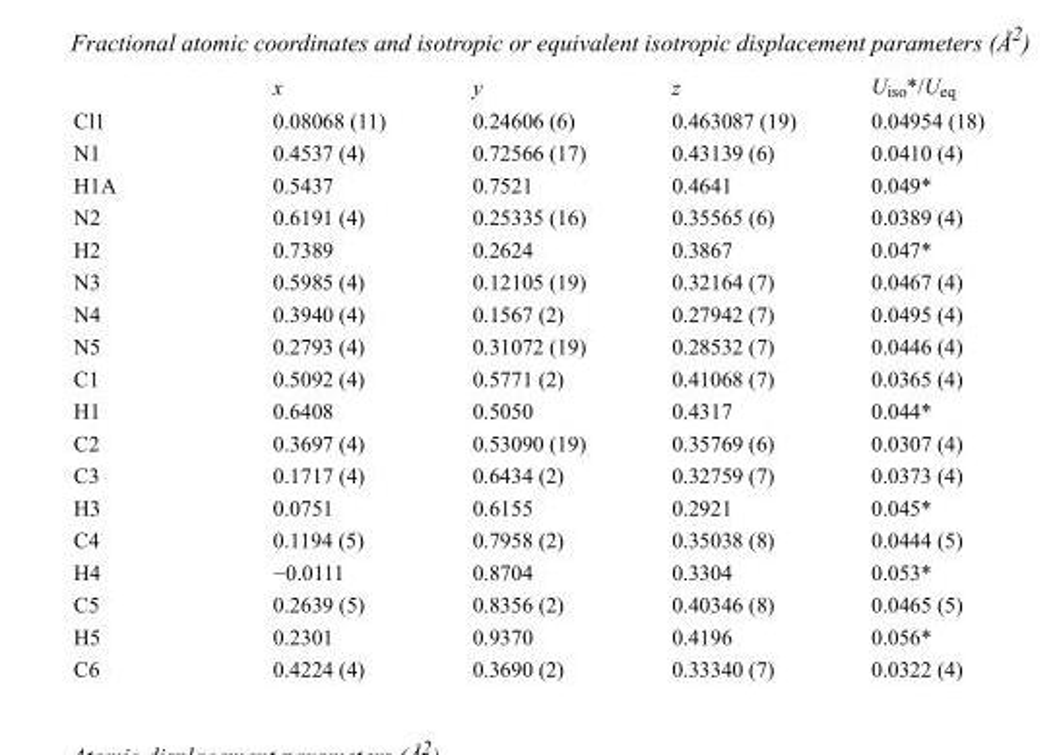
<table><thead><tr><td></td><td>x</td><td>y</td><td>z</td><td>U<sub>iso</sub>*/U<sub>eq</sub></td></tr></thead><tbody><tr><td>Cl1</td><td>0.08068 (11)</td><td>0.24606 (6)</td><td>0.463087 (19)</td><td>0.04954 (18)</td></tr><tr><td>N1</td><td>0.4537 (4)</td><td>0.72566 (17)</td><td>0.43139 (6)</td><td>0.0410 (4)</td></tr><tr><td>H1A</td><td>0.5437</td><td>0.7521</td><td>0.4641</td><td>0.049*</td></tr><tr><td>N2</td><td>0.6191 (4)</td><td>0.25335 (16)</td><td>0.35565 (6)</td><td>0.0389 (4)</td></tr><tr><td>H2</td><td>0.7389</td><td>0.2624</td><td>0.3867</td><td>0.047*</td></tr><tr><td>N3</td><td>0.5985 (4)</td><td>0.12105 (19)</td><td>0.32164 (7)</td><td>0.0467 (4)</td></tr><tr><td>N4</td><td>0.3940 (4)</td><td>0.1567 (2)</td><td>0.27942 (7)</td><td>0.0495 (4)</td></tr><tr><td>N5</td><td>0.2793 (4)</td><td>0.31072 (19)</td><td>0.28532 (7)</td><td>0.0446 (4)</td></tr><tr><td>C1</td><td>0.5092 (4)</td><td>0.5771 (2)</td><td>0.41068 (7)</td><td>0.0365 (4)</td></tr><tr><td>H1</td><td>0.6408</td><td>0.5050</td><td>0.4317</td><td>0.044*</td></tr><tr><td>C2</td><td>0.3697 (4)</td><td>0.53090 (19)</td><td>0.35769 (6)</td><td>0.0307 (4)</td></tr><tr><td>C3</td><td>0.1717 (4)</td><td>0.6434 (2)</td><td>0.32759 (7)</td><td>0.0373 (4)</td></tr><tr><td>H3</td><td>0.0751</td><td>0.6155</td><td>0.2921</td><td>0.045*</td></tr><tr><td>C4</td><td>0.1194 (5)</td><td>0.7958 (2)</td><td>0.35038 (8)</td><td>0.0444 (5)</td></tr><tr><td>H4</td><td>−0.0111</td><td>0.8704</td><td>0.3304</td><td>0.053*</td></tr><tr><td>C5</td><td>0.2639 (5)</td><td>0.8356 (2)</td><td>0.40346 (8)</td><td>0.0465 (5)</td></tr><tr><td>H5</td><td>0.2301</td><td>0.9370</td><td>0.4196</td><td>0.056*</td></tr><tr><td>C6</td><td>0.4224 (4)</td><td>0.3690 (2)</td><td>0.33340 (7)</td><td>0.0322 (4)</td></tr></tbody></table>